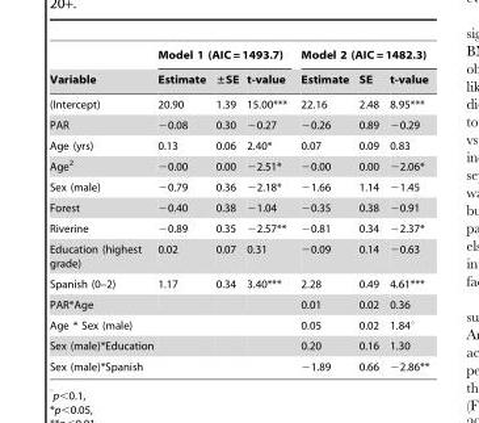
<table><thead><tr><td rowspan="2">Variable</td><td colspan="3">Model 1 (AIC = 1493.7)</td><td colspan="3">Model 2 (AIC = 1482.3)</td></tr><tr><td>Estimate</td><td>±SE</td><td>t-value</td><td>Estimate</td><td>SE</td><td>t-value</td></tr></thead><tbody><tr><td>(Intercept)</td><td>20.90</td><td>1.39</td><td>15.00***</td><td>22.16</td><td>2.48</td><td>8.95***</td></tr><tr><td>PAR</td><td>−0.08</td><td>0.30</td><td>−0.27</td><td>−0.26</td><td>0.89</td><td>−0.29</td></tr><tr><td>Age (yrs)</td><td>0.13</td><td>0.06</td><td>2.40*</td><td>0.07</td><td>0.09</td><td>0.83</td></tr><tr><td>Age<sup>2</sup></td><td>−0.00</td><td>0.00</td><td>−2.51*</td><td>−0.00</td><td>0.00</td><td>−2.06*</td></tr><tr><td>Sex (male)</td><td>−0.79</td><td>0.36</td><td>−2.18*</td><td>−1.66</td><td>1.14</td><td>−1.45</td></tr><tr><td>Forest</td><td>−0.40</td><td>0.38</td><td>−1.04</td><td>−0.35</td><td>0.38</td><td>−0.91</td></tr><tr><td>Riverine</td><td>−0.89</td><td>0.35</td><td>−2.57**</td><td>−0.81</td><td>0.34</td><td>−2.37*</td></tr><tr><td>Education (highest grade)</td><td>0.02</td><td>0.07</td><td>0.31</td><td>−0.09</td><td>0.14</td><td>−0.63</td></tr><tr><td>Spanish (0–2)</td><td>1.17</td><td>0.34</td><td>3.40***</td><td>2.28</td><td>0.49</td><td>4.61***</td></tr><tr><td>PAR*Age</td><td></td><td></td><td></td><td>0.01</td><td>0.02</td><td>0.36</td></tr><tr><td>Age * Sex (male)</td><td></td><td></td><td></td><td>0.05</td><td>0.02</td><td>1.84°</td></tr><tr><td>Sex (male)*Education</td><td></td><td></td><td></td><td>0.20</td><td>0.16</td><td>1.30</td></tr><tr><td>Sex (male)*Spanish</td><td></td><td></td><td></td><td>−1.89</td><td>0.66</td><td>−2.86**</td></tr></tbody></table>